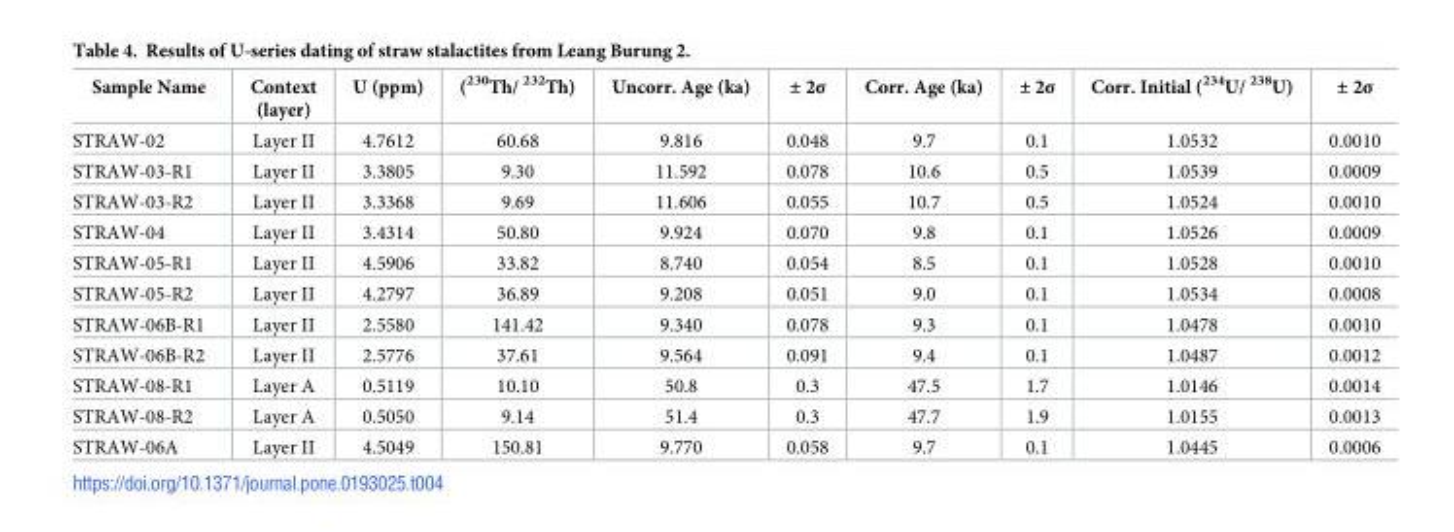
<table><thead><tr><td>Sample Name</td><td>Context (layer)</td><td>U (ppm)</td><td>(<sup>230</sup>Th/ <sup>232</sup>Th)</td><td>Uncorr. Age (ka)</td><td>± 2σ</td><td>Corr. Age (ka)</td><td>± 2σ</td><td>Corr. Initial (<sup>234</sup>U/ <sup>238</sup>U)</td><td>± 2σ</td></tr></thead><tbody><tr><td>STRAW-02</td><td>Layer II</td><td>4.7612</td><td>60.68</td><td>9.816</td><td>0.048</td><td>9.7</td><td>0.1</td><td>1.0532</td><td>0.0010</td></tr><tr><td>STRAW-03-R1</td><td>Layer II</td><td>3.3805</td><td>9.30</td><td>11.592</td><td>0.078</td><td>10.6</td><td>0.5</td><td>1.0539</td><td>0.0009</td></tr><tr><td>STRAW-03-R2</td><td>Layer II</td><td>3.3368</td><td>9.69</td><td>11.606</td><td>0.055</td><td>10.7</td><td>0.5</td><td>1.0524</td><td>0.0010</td></tr><tr><td>STRAW-04</td><td>Layer II</td><td>3.4314</td><td>50.80</td><td>9.924</td><td>0.070</td><td>9.8</td><td>0.1</td><td>1.0526</td><td>0.0009</td></tr><tr><td>STRAW-05-R1</td><td>Layer II</td><td>4.5906</td><td>33.82</td><td>8.740</td><td>0.054</td><td>8.5</td><td>0.1</td><td>1.0528</td><td>0.0010</td></tr><tr><td>STRAW-05-R2</td><td>Layer II</td><td>4.2797</td><td>36.89</td><td>9.208</td><td>0.051</td><td>9.0</td><td>0.1</td><td>1.0534</td><td>0.0008</td></tr><tr><td>STRAW-06B-R1</td><td>Layer II</td><td>2.5580</td><td>141.42</td><td>9.340</td><td>0.078</td><td>9.3</td><td>0.1</td><td>1.0478</td><td>0.0010</td></tr><tr><td>STRAW-06B-R2</td><td>Layer II</td><td>2.5776</td><td>37.61</td><td>9.564</td><td>0.091</td><td>9.4</td><td>0.1</td><td>1.0487</td><td>0.0012</td></tr><tr><td>STRAW-08-R1</td><td>Layer A</td><td>0.5119</td><td>10.10</td><td>50.8</td><td>0.3</td><td>47.5</td><td>1.7</td><td>1.0146</td><td>0.0014</td></tr><tr><td>STRAW-08-R2</td><td>Layer A</td><td>0.5050</td><td>9.14</td><td>51.4</td><td>0.3</td><td>47.7</td><td>1.9</td><td>1.0155</td><td>0.0013</td></tr><tr><td>STRAW-06A</td><td>Layer II</td><td>4.5049</td><td>150.81</td><td>9.770</td><td>0.058</td><td>9.7</td><td>0.1</td><td>1.0445</td><td>0.0006</td></tr></tbody></table>